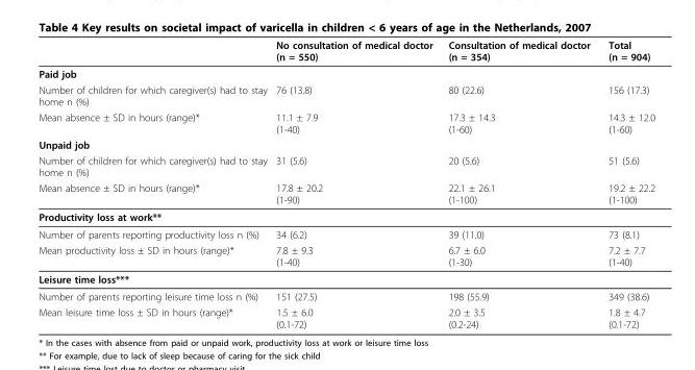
<table><thead><tr><td></td><td>No consultation of medical doctor (n = 550)</td><td>Consultation of medical doctor (n = 354)</td><td>Total (n = 904)</td></tr></thead><tbody><tr><td colspan="4">Paid job</td></tr><tr><td>Number of children for which caregiver(s) had to stay home n (%)</td><td>76 (13.8)</td><td>80 (22.6)</td><td>156 (17.3)</td></tr><tr><td>Mean absence ± SD in hours (range)*</td><td>11.1 ± 7.9 (1-40)</td><td>17.3 ± 14.3 (1-60)</td><td>14.3 ± 12.0 (1-60)</td></tr><tr><td colspan="4">Unpaid job</td></tr><tr><td>Number of children for which caregiver(s) had to stay home n (%)</td><td>31 (5.6)</td><td>20 (5.6)</td><td>51 (5.6)</td></tr><tr><td>Mean absence ± SD in hours (range)*</td><td>17.8 ± 20.2 (1-90)</td><td>22.1 ± 26.1 (1-100)</td><td>19.2 ± 22.2 (1-100)</td></tr><tr><td colspan="4">Productivity loss at work**</td></tr><tr><td>Number of parents reporting productivity loss n (%)</td><td>34 (6.2)</td><td>39 (11.0)</td><td>73 (8.1)</td></tr><tr><td>Mean productivity loss ± SD in hours (range)*</td><td>7.8 ± 9.3 (1-40)</td><td>6.7 ± 6.0 (1-30)</td><td>7.2 ± 7.7 (1-40)</td></tr><tr><td colspan="4">Leisure time loss***</td></tr><tr><td>Number of parents reporting leisure time loss n (%)</td><td>151 (27.5)</td><td>198 (55.9)</td><td>349 (38.6)</td></tr><tr><td>Mean leisure time loss ± SD in hours (range)*</td><td>1.5 ± 6.0 (0.1-72)</td><td>2.0 ± 3.5 (0.2-24)</td><td>1.8 ± 4.7 (0.1-72)</td></tr></tbody></table>